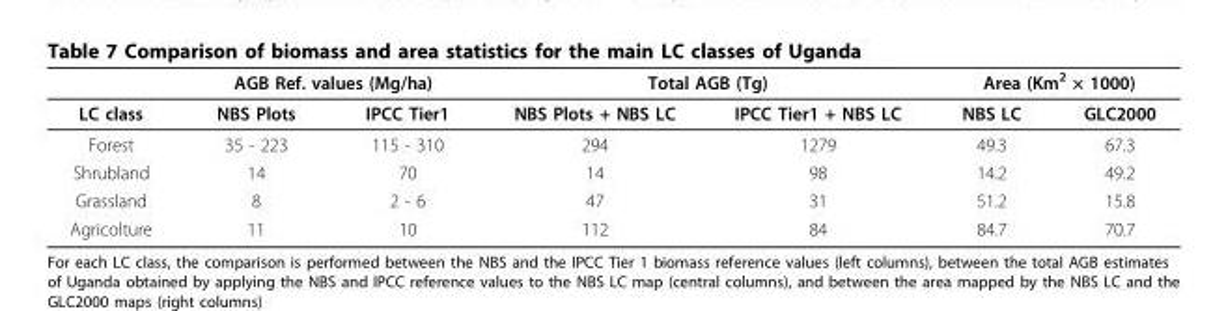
<table><thead><tr><td rowspan="2">LC class</td><td colspan="2">AGB Ref. values (Mg/ha)</td><td colspan="2">Total AGB (Tg)</td><td colspan="2">Area (Km<sup>2</sup> × 1000)</td></tr><tr><td>NBS Plots</td><td>IPCC Tier1</td><td>NBS Plots + NBS LC</td><td>IPCC Tier1 + NBS LC</td><td>NBS LC</td><td>GLC2000</td></tr></thead><tbody><tr><td>Forest</td><td>35 - 223</td><td>115 - 310</td><td>294</td><td>1279</td><td>49.3</td><td>67.3</td></tr><tr><td>Shrubland</td><td>14</td><td>70</td><td>14</td><td>98</td><td>14.2</td><td>49.2</td></tr><tr><td>Grassland</td><td>8</td><td>2 - 6</td><td>47</td><td>31</td><td>51.2</td><td>15.8</td></tr><tr><td>Agricolture</td><td>11</td><td>10</td><td>112</td><td>84</td><td>84.7</td><td>70.7</td></tr></tbody></table>